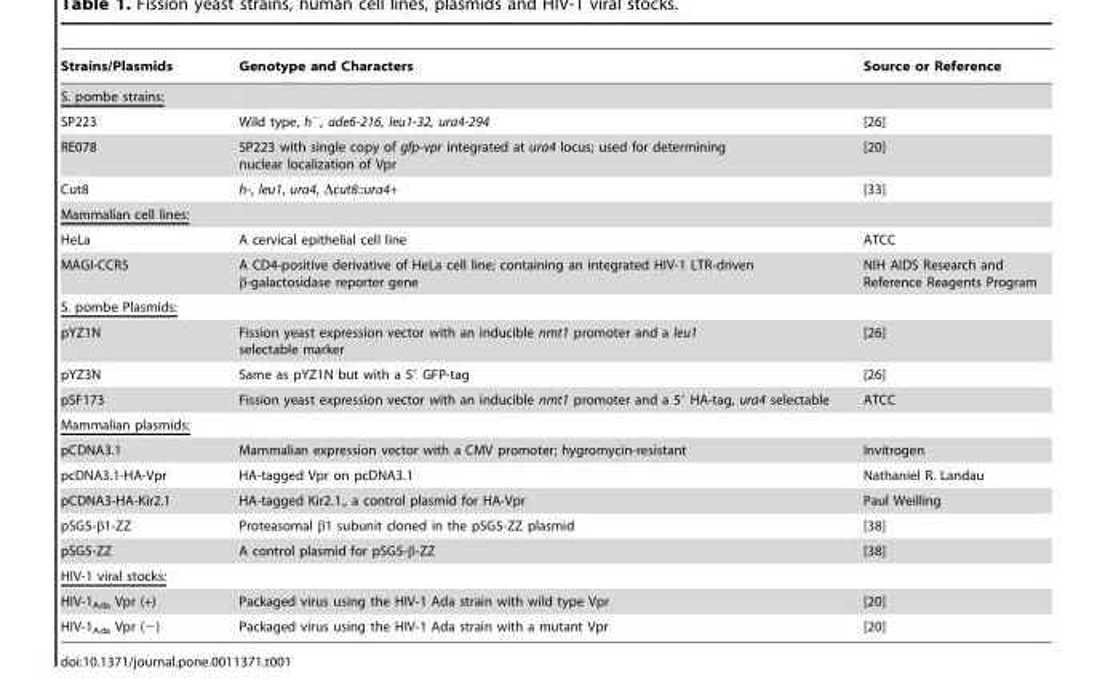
<table><thead><tr><td>Strains/Plasmids</td><td>Genotype and Characters</td><td>Source or Reference</td></tr></thead><tbody><tr><td colspan="3">S. pombe strains:</td></tr><tr><td>SP223</td><td>Wild type, h<sup>−</sup>, ade6-216, leu1-32, ura4-294</td><td>[26]</td></tr><tr><td>RE078</td><td>SP223 with single copy of gfp-vpr integrated at ura4 locus; used for determining nuclear localization of Vpr</td><td>[20]</td></tr><tr><td>Cut8</td><td>h-, leu1, ura4, Δcut8::ura4+</td><td>[33]</td></tr><tr><td colspan="3">Mammalian cell lines:</td></tr><tr><td>HeLa</td><td>A cervical epithelial cell line</td><td>ATCC</td></tr><tr><td>MAGI-CCR5</td><td>A CD4-positive derivative of HeLa cell line; containing an integrated HIV-1 LTR-driven β-galactosidase reporter gene</td><td>NIH AIDS Research and Reference Reagents Program</td></tr><tr><td colspan="3">S. pombe Plasmids:</td></tr><tr><td>pYZ1N</td><td>Fission yeast expression vector with an inducible nmt1 promoter and a leu1 selectable marker</td><td>[26]</td></tr><tr><td>pYZ3N</td><td>Same as pYZ1N but with a 5′ GFP-tag</td><td>[26]</td></tr><tr><td>pSF173</td><td>Fission yeast expression vector with an inducible nmt1 promoter and a 5′ HA-tag, ura4 selectable</td><td>ATCC</td></tr><tr><td colspan="3">Mammalian plasmids:</td></tr><tr><td>pCDNA3.1</td><td>Mammalian expression vector with a CMV promoter; hygromycin-resistant</td><td>Invitrogen</td></tr><tr><td>pcDNA3.1-HA-Vpr</td><td>HA-tagged Vpr on pcDNA3.1</td><td>Nathaniel R. Landau</td></tr><tr><td>pCDNA3-HA-Kir2.1</td><td>HA-tagged Kir2.1., a control plasmid for HA-Vpr</td><td>Paul Weilling</td></tr><tr><td>pSG5-β1-ZZ</td><td>Proteasomal β1 subunit cloned in the pSG5-ZZ plasmid</td><td>[38]</td></tr><tr><td>pSG5-ZZ</td><td>A control plasmid for pSG5-β-ZZ</td><td>[38]</td></tr><tr><td colspan="3">HIV-1 viral stocks:</td></tr><tr><td>HIV-1<sub>Ada</sub> Vpr (+)</td><td>Packaged virus using the HIV-1 Ada strain with wild type Vpr</td><td>[20]</td></tr><tr><td>HIV-1<sub>Ada</sub> Vpr (−)</td><td>Packaged virus using the HIV-1 Ada strain with a mutant Vpr</td><td>[20]</td></tr></tbody></table>